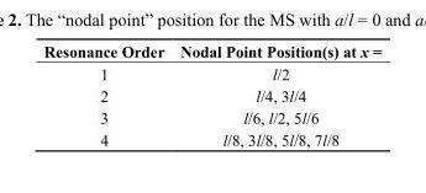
<table><thead><tr><td>Resonance Order</td><td>Nodal Point Position(s) at x =</td></tr></thead><tbody><tr><td>1</td><td>l/2</td></tr><tr><td>2</td><td>l/4, 3l/4</td></tr><tr><td>3</td><td>l/6, l/2, 5l/6</td></tr><tr><td>4</td><td>l/8, 3l/8, 5l/8, 7l/8</td></tr></tbody></table>